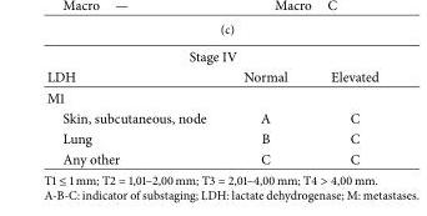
<table><thead><tr><td colspan="3">Stage IV</td></tr><tr><td>LDH</td><td>Normal</td><td>Elevated</td></tr></thead><tbody><tr><td colspan="3">M1</td></tr><tr><td>Skin, subcutaneous, node</td><td>A</td><td>C</td></tr><tr><td>Lung</td><td>B</td><td>C</td></tr><tr><td>Any other</td><td>C</td><td>C</td></tr></tbody></table>